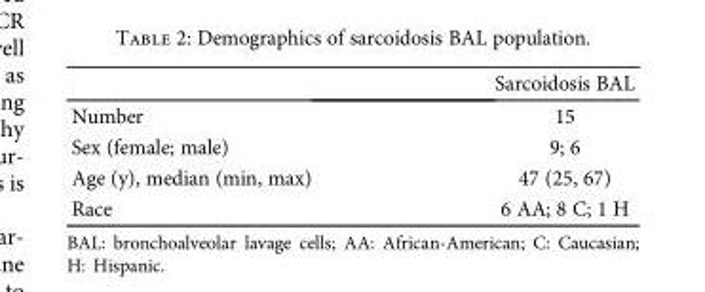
<table><thead><tr><td></td><td>Sarcoidosis BAL</td></tr></thead><tbody><tr><td>Number</td><td>15</td></tr><tr><td>Sex (female; male)</td><td>9; 6</td></tr><tr><td>Age (y), median (min, max)</td><td>47 (25, 67)</td></tr><tr><td>Race</td><td>6 AA; 8 C; 1 H</td></tr></tbody></table>